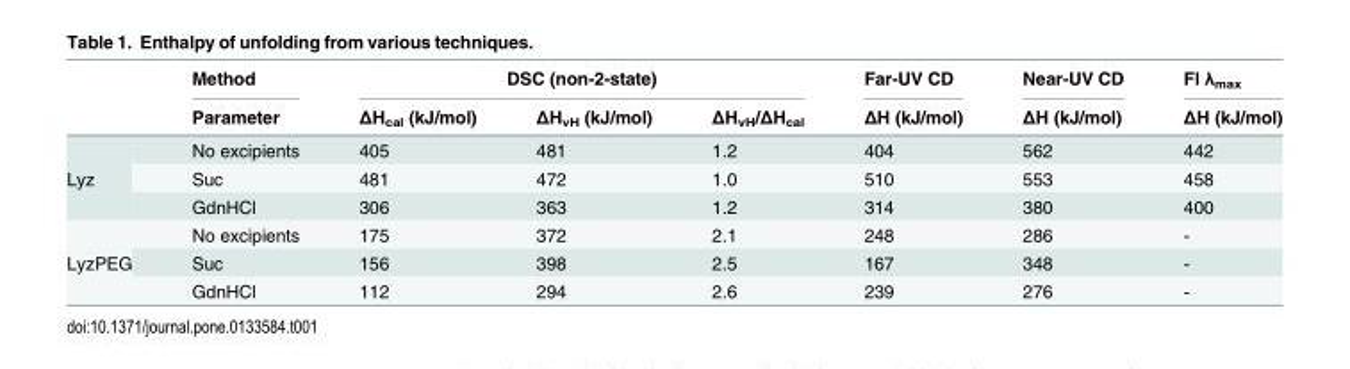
<table><thead><tr><td rowspan="2"></td><td rowspan="2">Method Parameter</td><td colspan="3">DSC (non-2-state)</td><td rowspan="2">Far-UV CD ΔH (kJ/mol)</td><td rowspan="2">Near-UV CD ΔH (kJ/mol)</td><td rowspan="2">Fl λ<sub>max</sub> ΔH (kJ/mol)</td></tr><tr><td>ΔH<sub>cal</sub> (kJ/mol)</td><td>ΔH<sub>vH</sub> (kJ/mol)</td><td>ΔH<sub>vH</sub>/ΔH<sub>cal</sub></td></tr></thead><tbody><tr><td rowspan="3">Lyz</td><td>No excipients</td><td>405</td><td>481</td><td>1.2</td><td>404</td><td>562</td><td>442</td></tr><tr><td>Suc</td><td>481</td><td>472</td><td>1.0</td><td>510</td><td>553</td><td>458</td></tr><tr><td>GdnHCl</td><td>306</td><td>363</td><td>1.2</td><td>314</td><td>380</td><td>400</td></tr><tr><td rowspan="3">LyzPEG</td><td>No excipients</td><td>175</td><td>372</td><td>2.1</td><td>248</td><td>286</td><td>-</td></tr><tr><td>Suc</td><td>156</td><td>398</td><td>2.5</td><td>167</td><td>348</td><td>-</td></tr><tr><td>GdnHCl</td><td>112</td><td>294</td><td>2.6</td><td>239</td><td>276</td><td>-</td></tr></tbody></table>